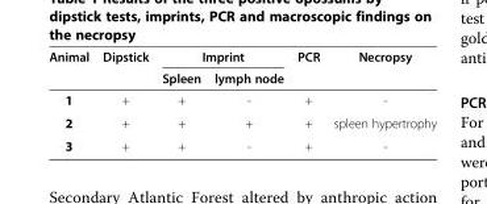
<table><thead><tr><td rowspan="2">Animal</td><td rowspan="2">Dipstick</td><td colspan="2">Imprint</td><td rowspan="2">PCR</td><td rowspan="2">Necropsy</td></tr><tr><td>Spleen</td><td>lymph node</td></tr></thead><tbody><tr><td>1</td><td>+</td><td>+</td><td>-</td><td>+</td><td>-</td></tr><tr><td>2</td><td>+</td><td>+</td><td>+</td><td>+</td><td>spleen hypertrophy</td></tr><tr><td>3</td><td>+</td><td>+</td><td>-</td><td>+</td><td>-</td></tr></tbody></table>